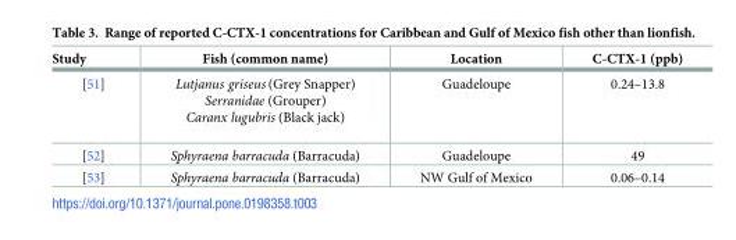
<table><thead><tr><td>Study</td><td>Fish (common name)</td><td>Location</td><td>C-CTX-1 (ppb)</td></tr></thead><tbody><tr><td>[51]</td><td>Lutjanus griseus (Grey Snapper) Serranidae (Grouper) Caranx lugubris (Black jack)</td><td>Guadeloupe</td><td>0.24–13.8</td></tr><tr><td>[52]</td><td>Sphyraena barracuda (Barracuda)</td><td>Guadeloupe</td><td>49</td></tr><tr><td>[53]</td><td>Sphyraena barracuda (Barracuda)</td><td>NW Gulf of Mexico</td><td>0.06–0.14</td></tr></tbody></table>